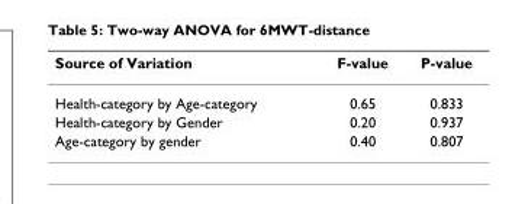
<table><thead><tr><td>Source of Variation</td><td>F-value</td><td>P-value</td></tr></thead><tbody><tr><td>Health-category by Age-category</td><td>0.65</td><td>0.833</td></tr><tr><td>Health-category by Gender</td><td>0.20</td><td>0.937</td></tr><tr><td>Age-category by gender</td><td>0.40</td><td>0.807</td></tr></tbody></table>